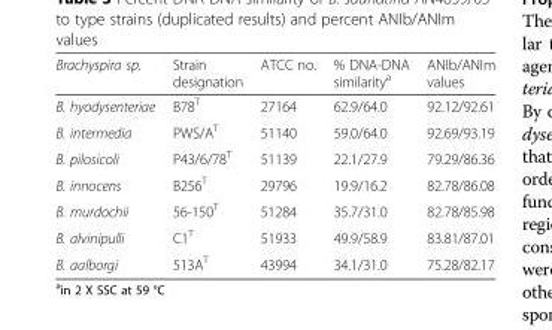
<table><thead><tr><td>Brachyspira sp.</td><td>Strain designation</td><td>ATCC no.</td><td>% DNA-DNA similarity<sup>a</sup></td><td>ANIb/ANIm values</td></tr></thead><tbody><tr><td>B. hyodysenteriae</td><td>B78<sup>T</sup></td><td>27164</td><td>62.9/64.0</td><td>92.12/92.61</td></tr><tr><td>B. intermedia</td><td>PWS/A<sup>T</sup></td><td>51140</td><td>59.0/64.0</td><td>92.69/93.19</td></tr><tr><td>B. pilosicoli</td><td>P43/6/78<sup>T</sup></td><td>51139</td><td>22.1/27.9</td><td>79.29/86.36</td></tr><tr><td>B. innocens</td><td>B256<sup>T</sup></td><td>29796</td><td>19.9/16.2</td><td>82.78/86.08</td></tr><tr><td>B. murdochii</td><td>56-150<sup>T</sup></td><td>51284</td><td>35.7/31.0</td><td>82.78/85.98</td></tr><tr><td>B. alvinipulli</td><td>C1<sup>T</sup></td><td>51933</td><td>49.9/58.9</td><td>83.81/87.01</td></tr><tr><td>B. aalborgi</td><td>513A<sup>T</sup></td><td>43994</td><td>34.1/31.0</td><td>75.28/82.17</td></tr></tbody></table>